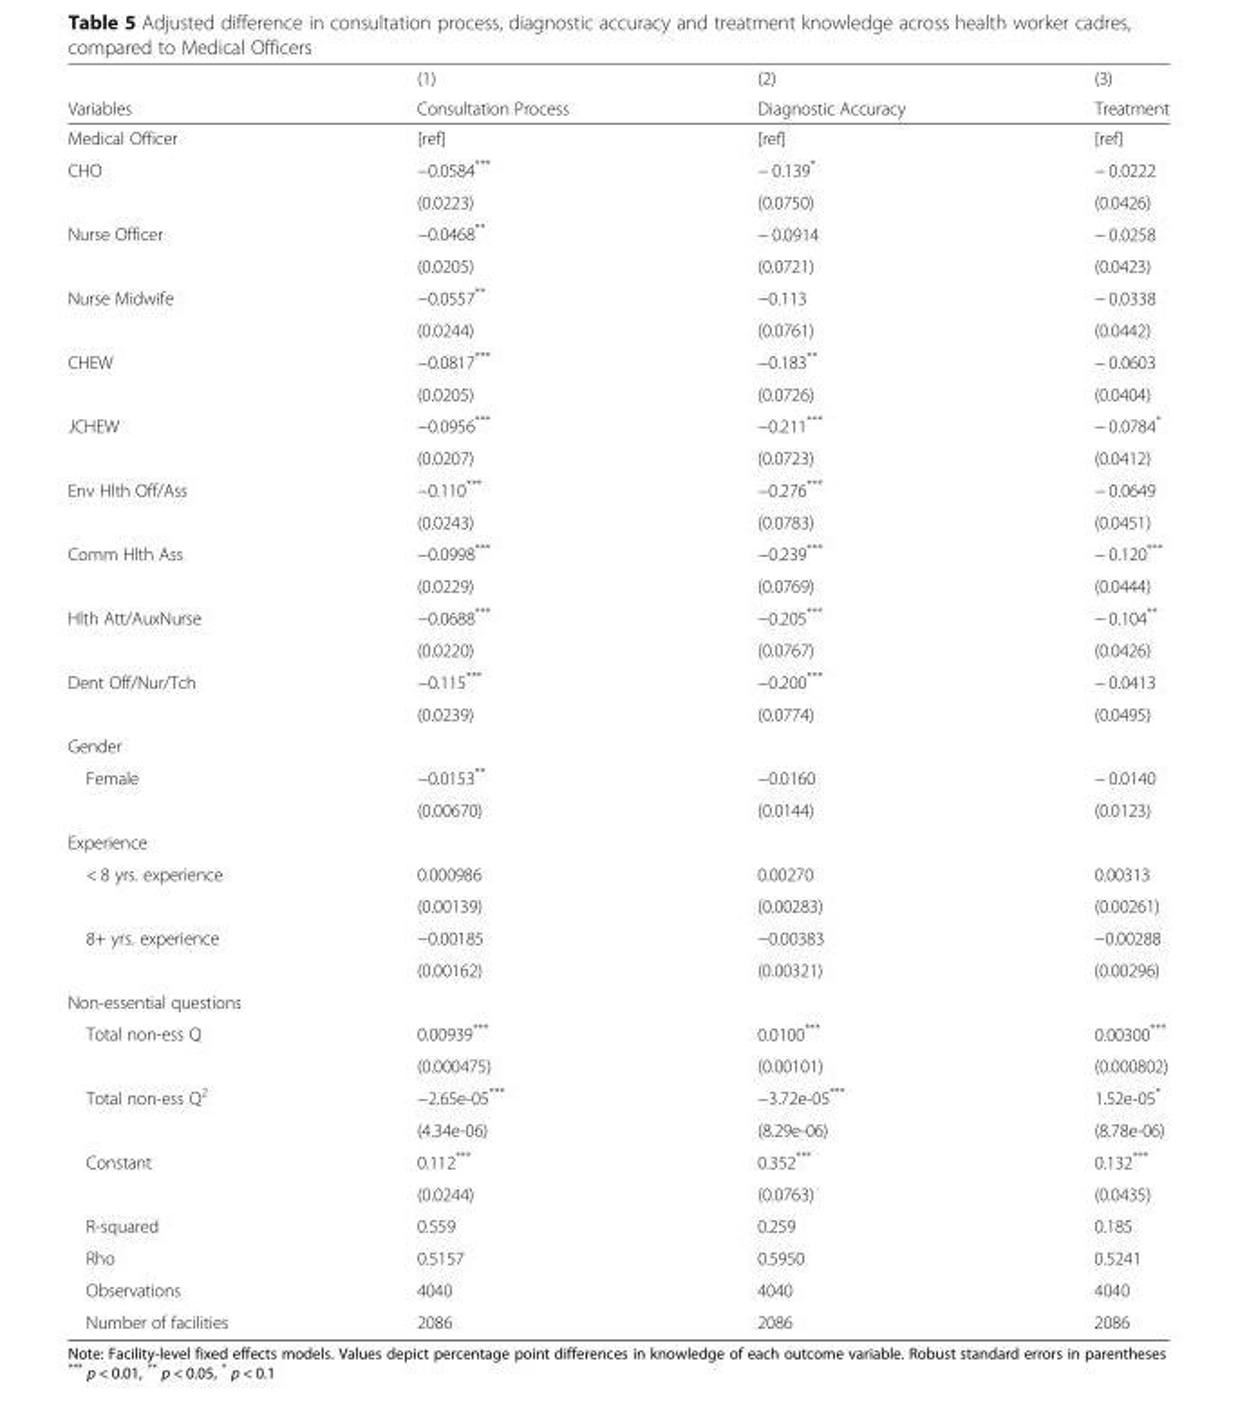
<table><thead><tr><td rowspan="2">Variables</td><td rowspan="2">(1) Consultation Process</td><td rowspan="2">(2) Diagnostic Accuracy</td><td rowspan="2">(3) Treatment</td></tr><tr></tr></thead><tbody><tr><td>Medical Officer</td><td>[ref]</td><td>[ref]</td><td>[ref]</td></tr><tr><td rowspan="2">CHO</td><td>−0.0584***</td><td>− 0.139*</td><td>− 0.0222</td></tr><tr><td>(0.0223)</td><td>(0.0750)</td><td>(0.0426)</td></tr><tr><td rowspan="2">Nurse Officer</td><td>−0.0468**</td><td>− 0.0914</td><td>− 0.0258</td></tr><tr><td>(0.0205)</td><td>(0.0721)</td><td>(0.0423)</td></tr><tr><td rowspan="2">Nurse Midwife</td><td>−0.0557**</td><td>−0.113</td><td>− 0.0338</td></tr><tr><td>(0.0244)</td><td>(0.0761)</td><td>(0.0442)</td></tr><tr><td rowspan="2">CHEW</td><td>−0.0817***</td><td>−0.183**</td><td>− 0.0603</td></tr><tr><td>(0.0205)</td><td>(0.0726)</td><td>(0.0404)</td></tr><tr><td rowspan="2">JCHEW</td><td>−0.0956***</td><td>−0.211***</td><td>− 0.0784*</td></tr><tr><td>(0.0207)</td><td>(0.0723)</td><td>(0.0412)</td></tr><tr><td rowspan="2">Env Hlth Off/Ass</td><td>−0.110***</td><td>−0.276***</td><td>− 0.0649</td></tr><tr><td>(0.0243)</td><td>(0.0783)</td><td>(0.0451)</td></tr><tr><td rowspan="2">Comm Hlth Ass</td><td>−0.0998***</td><td>−0.239***</td><td>− 0.120***</td></tr><tr><td>(0.0229)</td><td>(0.0769)</td><td>(0.0444)</td></tr><tr><td rowspan="2">Hlth Att/AuxNurse</td><td>−0.0688***</td><td>−0.205***</td><td>− 0.104**</td></tr><tr><td>(0.0220)</td><td>(0.0767)</td><td>(0.0426)</td></tr><tr><td rowspan="2">Dent Off/Nur/Tch</td><td>−0.115***</td><td>−0.200***</td><td>− 0.0413</td></tr><tr><td>(0.0239)</td><td>(0.0774)</td><td>(0.0495)</td></tr><tr><td colspan="4">Gender</td></tr><tr><td rowspan="2">Female</td><td>−0.0153**</td><td>−0.0160</td><td>− 0.0140</td></tr><tr><td>(0.00670)</td><td>(0.0144)</td><td>(0.0123)</td></tr><tr><td colspan="4">Experience</td></tr><tr><td rowspan="2">&lt; 8 yrs. experience</td><td>0.000986</td><td>0.00270</td><td>0.00313</td></tr><tr><td>(0.00139)</td><td>(0.00283)</td><td>(0.00261)</td></tr><tr><td rowspan="2">8+ yrs. experience</td><td>−0.00185</td><td>−0.00383</td><td>−0.00288</td></tr><tr><td>(0.00162)</td><td>(0.00321)</td><td>(0.00296)</td></tr><tr><td colspan="4">Non-essential questions</td></tr><tr><td rowspan="2">Total non-ess Q</td><td>0.00939***</td><td>0.0100***</td><td>0.00300***</td></tr><tr><td>(0.000475)</td><td>(0.00101)</td><td>(0.000802)</td></tr><tr><td rowspan="2">Total non-ess Q<sup>2</sup></td><td>−2.65e-05***</td><td>−3.72e-05***</td><td>1.52e-05*</td></tr><tr><td>(4.34e-06)</td><td>(8.29e-06)</td><td>(8.78e-06)</td></tr><tr><td rowspan="2">Constant</td><td>0.112***</td><td>0.352***</td><td>0.132***</td></tr><tr><td>(0.0244)</td><td>(0.0763)</td><td>(0.0435)</td></tr><tr><td>R-squared</td><td>0.559</td><td>0.259</td><td>0.185</td></tr><tr><td>Rho</td><td>0.5157</td><td>0.5950</td><td>0.5241</td></tr><tr><td>Observations</td><td>4040</td><td>4040</td><td>4040</td></tr><tr><td>Number of facilities</td><td>2086</td><td>2086</td><td>2086</td></tr></tbody></table>